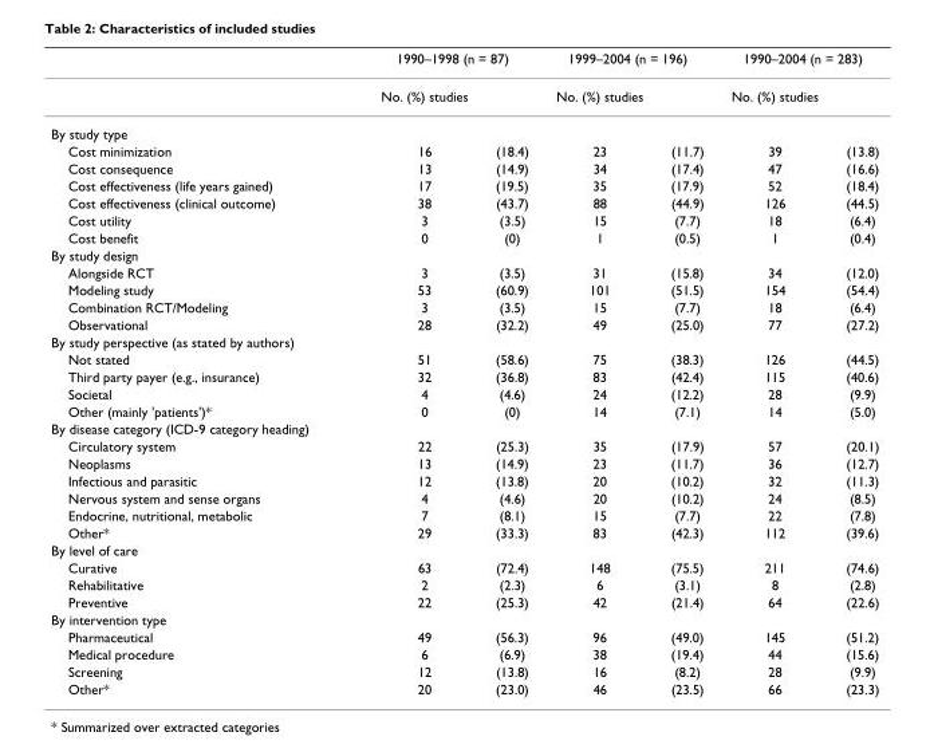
<table><thead><tr><td rowspan="2"></td><td colspan="2">1990–1998 (n = 87)</td><td colspan="2">1999–2004 (n = 196)</td><td colspan="2">1990–2004 (n = 283)</td></tr><tr><td>No. (%) studies</td><td></td><td>No. (%) studies</td><td></td><td>No. (%) studies</td><td></td></tr></thead><tbody><tr><td colspan="7">By study type</td></tr><tr><td>Cost minimization</td><td>16</td><td>(18.4)</td><td>23</td><td>(11.7)</td><td>39</td><td>(13.8)</td></tr><tr><td>Cost consequence</td><td>13</td><td>(14.9)</td><td>34</td><td>(17.4)</td><td>47</td><td>(16.6)</td></tr><tr><td>Cost effectiveness (life years gained)</td><td>17</td><td>(19.5)</td><td>35</td><td>(17.9)</td><td>52</td><td>(18.4)</td></tr><tr><td>Cost effectiveness (clinical outcome)</td><td>38</td><td>(43.7)</td><td>88</td><td>(44.9)</td><td>126</td><td>(44.5)</td></tr><tr><td>Cost utility</td><td>3</td><td>(3.5)</td><td>15</td><td>(7.7)</td><td>18</td><td>(6.4)</td></tr><tr><td>Cost benefit</td><td>0</td><td>(0)</td><td>1</td><td>(0.5)</td><td>1</td><td>(0.4)</td></tr><tr><td colspan="7">By study design</td></tr><tr><td>Alongside RCT</td><td>3</td><td>(3.5)</td><td>31</td><td>(15.8)</td><td>34</td><td>(12.0)</td></tr><tr><td>Modeling study</td><td>53</td><td>(60.9)</td><td>101</td><td>(51.5)</td><td>154</td><td>(54.4)</td></tr><tr><td>Combination RCT/Modeling</td><td>3</td><td>(3.5)</td><td>15</td><td>(7.7)</td><td>18</td><td>(6.4)</td></tr><tr><td>Observational</td><td>28</td><td>(32.2)</td><td>49</td><td>(25.0)</td><td>77</td><td>(27.2)</td></tr><tr><td colspan="7">By study perspective (as stated by authors)</td></tr><tr><td>Not stated</td><td>51</td><td>(58.6)</td><td>75</td><td>(38.3)</td><td>126</td><td>(44.5)</td></tr><tr><td>Third party payer (e.g., insurance)</td><td>32</td><td>(36.8)</td><td>83</td><td>(42.4)</td><td>115</td><td>(40.6)</td></tr><tr><td>Societal</td><td>4</td><td>(4.6)</td><td>24</td><td>(12.2)</td><td>28</td><td>(9.9)</td></tr><tr><td>Other (mainly &#x27;patients&#x27;)*</td><td>0</td><td>(0)</td><td>14</td><td>(7.1)</td><td>14</td><td>(5.0)</td></tr><tr><td colspan="7">By disease category (ICD-9 category heading)</td></tr><tr><td>Circulatory system</td><td>22</td><td>(25.3)</td><td>35</td><td>(17.9)</td><td>57</td><td>(20.1)</td></tr><tr><td>Neoplasms</td><td>13</td><td>(14.9)</td><td>23</td><td>(11.7)</td><td>36</td><td>(12.7)</td></tr><tr><td>Infectious and parasitic</td><td>12</td><td>(13.8)</td><td>20</td><td>(10.2)</td><td>32</td><td>(11.3)</td></tr><tr><td>Nervous system and sense organs</td><td>4</td><td>(4.6)</td><td>20</td><td>(10.2)</td><td>24</td><td>(8.5)</td></tr><tr><td>Endocrine, nutritional, metabolic</td><td>7</td><td>(8.1)</td><td>15</td><td>(7.7)</td><td>22</td><td>(7.8)</td></tr><tr><td>Other*</td><td>29</td><td>(33.3)</td><td>83</td><td>(42.3)</td><td>112</td><td>(39.6)</td></tr><tr><td colspan="7">By level of care</td></tr><tr><td>Curative</td><td>63</td><td>(72.4)</td><td>148</td><td>(75.5)</td><td>211</td><td>(74.6)</td></tr><tr><td>Rehabilitative</td><td>2</td><td>(2.3)</td><td>6</td><td>(3.1)</td><td>8</td><td>(2.8)</td></tr><tr><td>Preventive</td><td>22</td><td>(25.3)</td><td>42</td><td>(21.4)</td><td>64</td><td>(22.6)</td></tr><tr><td colspan="7">By intervention type</td></tr><tr><td>Pharmaceutical</td><td>49</td><td>(56.3)</td><td>96</td><td>(49.0)</td><td>145</td><td>(51.2)</td></tr><tr><td>Medical procedure</td><td>6</td><td>(6.9)</td><td>38</td><td>(19.4)</td><td>44</td><td>(15.6)</td></tr><tr><td>Screening</td><td>12</td><td>(13.8)</td><td>16</td><td>(8.2)</td><td>28</td><td>(9.9)</td></tr><tr><td>Other*</td><td>20</td><td>(23.0)</td><td>46</td><td>(23.5)</td><td>66</td><td>(23.3)</td></tr></tbody></table>